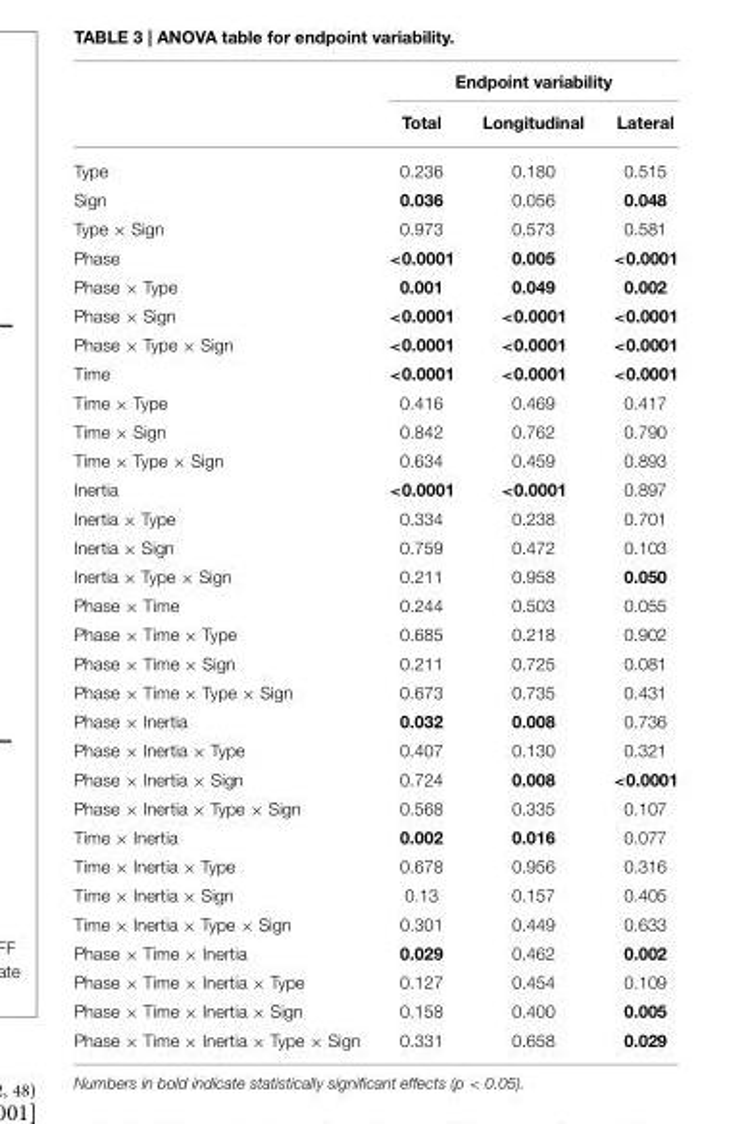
<table><thead><tr><td rowspan="2"></td><td colspan="3">Endpoint variability</td></tr><tr><td>Total</td><td>Longitudinal</td><td>Lateral</td></tr></thead><tbody><tr><td>Type</td><td>0.236</td><td>0.180</td><td>0.515</td></tr><tr><td>Sign</td><td>0.036</td><td>0.056</td><td>0.048</td></tr><tr><td>Type × Sign</td><td>0.973</td><td>0.573</td><td>0.581</td></tr><tr><td>Phase</td><td>&lt;0.0001</td><td>0.005</td><td>&lt;0.0001</td></tr><tr><td>Phase × Type</td><td>0.001</td><td>0.049</td><td>0.002</td></tr><tr><td>Phase × Sign</td><td>&lt;0.0001</td><td>&lt;0.0001</td><td>&lt;0.0001</td></tr><tr><td>Phase × Type × Sign</td><td>&lt;0.0001</td><td>&lt;0.0001</td><td>&lt;0.0001</td></tr><tr><td>Time</td><td>&lt;0.0001</td><td>&lt;0.0001</td><td>&lt;0.0001</td></tr><tr><td>Time × Type</td><td>0.416</td><td>0.469</td><td>0.417</td></tr><tr><td>Time × Sign</td><td>0.842</td><td>0.762</td><td>0.790</td></tr><tr><td>Time × Type × Sign</td><td>0.634</td><td>0.459</td><td>0.893</td></tr><tr><td>Inertia</td><td>&lt;0.0001</td><td>&lt;0.0001</td><td>0.897</td></tr><tr><td>Inertia × Type</td><td>0.334</td><td>0.238</td><td>0.701</td></tr><tr><td>Inertia × Sign</td><td>0.759</td><td>0.472</td><td>0.103</td></tr><tr><td>Inertia × Type × Sign</td><td>0.211</td><td>0.958</td><td>0.050</td></tr><tr><td>Phase × Time</td><td>0.244</td><td>0.503</td><td>0.055</td></tr><tr><td>Phase × Time × Type</td><td>0.685</td><td>0.218</td><td>0.902</td></tr><tr><td>Phase × Time × Sign</td><td>0.211</td><td>0.725</td><td>0.081</td></tr><tr><td>Phase × Time × Type × Sign</td><td>0.673</td><td>0.735</td><td>0.431</td></tr><tr><td>Phase × Inertia</td><td>0.032</td><td>0.008</td><td>0.736</td></tr><tr><td>Phase × Inertia × Type</td><td>0.407</td><td>0.130</td><td>0.321</td></tr><tr><td>Phase × Inertia × Sign</td><td>0.724</td><td>0.008</td><td>&lt;0.0001</td></tr><tr><td>Phase × Inertia × Type × Sign</td><td>0.568</td><td>0.335</td><td>0.107</td></tr><tr><td>Time × Inertia</td><td>0.002</td><td>0.016</td><td>0.077</td></tr><tr><td>Time × Inertia × Type</td><td>0.678</td><td>0.956</td><td>0.316</td></tr><tr><td>Time × Inertia × Sign</td><td>0.13</td><td>0.157</td><td>0.405</td></tr><tr><td>Time × Inertia × Type × Sign</td><td>0.301</td><td>0.449</td><td>0.633</td></tr><tr><td>Phase × Time × Inertia</td><td>0.029</td><td>0.462</td><td>0.002</td></tr><tr><td>Phase × Time × Inertia × Type</td><td>0.127</td><td>0.454</td><td>0.109</td></tr><tr><td>Phase × Time × Inertia × Sign</td><td>0.158</td><td>0.400</td><td>0.005</td></tr><tr><td>Phase × Time × Inertia × Type × Sign</td><td>0.331</td><td>0.658</td><td>0.029</td></tr></tbody></table>